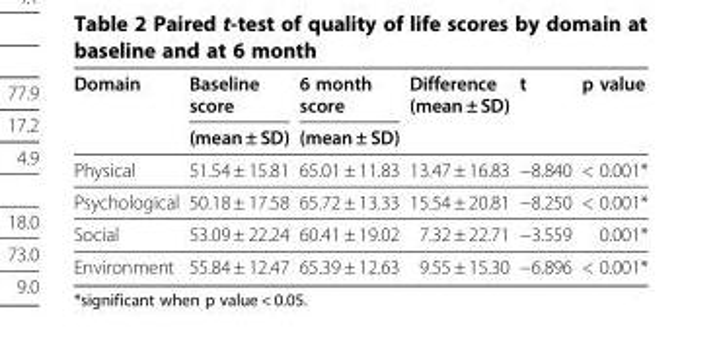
<table><thead><tr><td rowspan="2">Domain</td><td rowspan="2">Baseline score (mean ± SD)</td><td rowspan="2">6 month score (mean ± SD)</td><td rowspan="2">Difference (mean ± SD)</td><td rowspan="2">t</td><td rowspan="2">p value</td></tr><tr></tr></thead><tbody><tr><td>Physical</td><td>51.54 ± 15.81</td><td>65.01 ± 11.83</td><td>13.47 ± 16.83</td><td>−8.840</td><td>&lt; 0.001*</td></tr><tr><td>Psychological</td><td>50.18 ± 17.58</td><td>65.72 ± 13.33</td><td>15.54 ± 20.81</td><td>−8.250</td><td>&lt; 0.001*</td></tr><tr><td>Social</td><td>53.09 ± 22.24</td><td>60.41 ± 19.02</td><td>7.32 ± 22.71</td><td>−3.559</td><td>0.001*</td></tr><tr><td>Environment</td><td>55.84 ± 12.47</td><td>65.39 ± 12.63</td><td>9.55 ± 15.30</td><td>−6.896</td><td>&lt; 0.001*</td></tr></tbody></table>